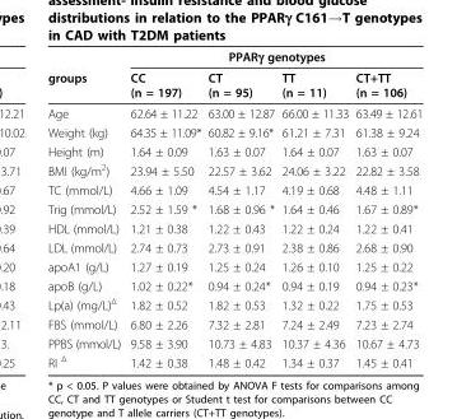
<table><thead><tr><td rowspan="2">groups</td><td colspan="4">PPARγ genotypes</td></tr><tr><td>CC (n = 197)</td><td>CT (n = 95)</td><td>TT (n = 11)</td><td>CT+TT (n = 106)</td></tr></thead><tbody><tr><td>Age</td><td>62.64 ± 11.22</td><td>63.00 ± 12.87</td><td>66.00 ± 11.33</td><td>63.49 ± 12.61</td></tr><tr><td>Weight (kg)</td><td>64.35 ± 11.09*</td><td>60.82 ± 9.16*</td><td>61.21 ± 7.31</td><td>61.38 ± 9.24</td></tr><tr><td>Height (m)</td><td>1.64 ± 0.09</td><td>1.63 ± 0.07</td><td>1.64 ± 0.07</td><td>1.63 ± 0.07</td></tr><tr><td>BMI (kg/m<sup>2</sup>)</td><td>23.94 ± 5.50</td><td>22.57 ± 3.62</td><td>24.06 ± 3.22</td><td>22.82 ± 3.58</td></tr><tr><td>TC (mmol/L)</td><td>4.66 ± 1.09</td><td>4.54 ± 1.17</td><td>4.19 ± 0.68</td><td>4.48 ± 1.11</td></tr><tr><td>Trig (mmol/L)</td><td>2.52 ± 1.59 *</td><td>1.68 ± 0.96 *</td><td>1.64 ± 0.46</td><td>1.67 ± 0.89*</td></tr><tr><td>HDL (mmol/L)</td><td>1.21 ± 0.38</td><td>1.22 ± 0.43</td><td>1.22 ± 0.24</td><td>1.22 ± 0.41</td></tr><tr><td>LDL (mmol/L)</td><td>2.74 ± 0.73</td><td>2.73 ± 0.91</td><td>2.38 ± 0.86</td><td>2.68 ± 0.90</td></tr><tr><td>apoA1 (g/L)</td><td>1.27 ± 0.19</td><td>1.25 ± 0.24</td><td>1.26 ± 0.10</td><td>1.25 ± 0.22</td></tr><tr><td>apoB (g/L)</td><td>1.02 ± 0.22*</td><td>0.94 ± 0.24*</td><td>0.94 ± 0.19</td><td>0.94 ± 0.23*</td></tr><tr><td>Lp(a) (mg/L)<sup>Δ</sup></td><td>1.82 ± 0.52</td><td>1.82 ± 0.53</td><td>1.32 ± 0.22</td><td>1.75 ± 0.53</td></tr><tr><td>FBS (mmol/L)</td><td>6.80 ± 2.26</td><td>7.32 ± 2.81</td><td>7.24 ± 2.49</td><td>7.23 ± 2.74</td></tr><tr><td>PPBS (mmol/L)</td><td>9.58 ± 3.90</td><td>10.73 ± 4.83</td><td>10.37 ± 4.36</td><td>10.67 ± 4.73</td></tr><tr><td>RI <sup>Δ</sup></td><td>1.42 ± 0.38</td><td>1.48 ± 0.42</td><td>1.34 ± 0.37</td><td>1.45 ± 0.41</td></tr></tbody></table>